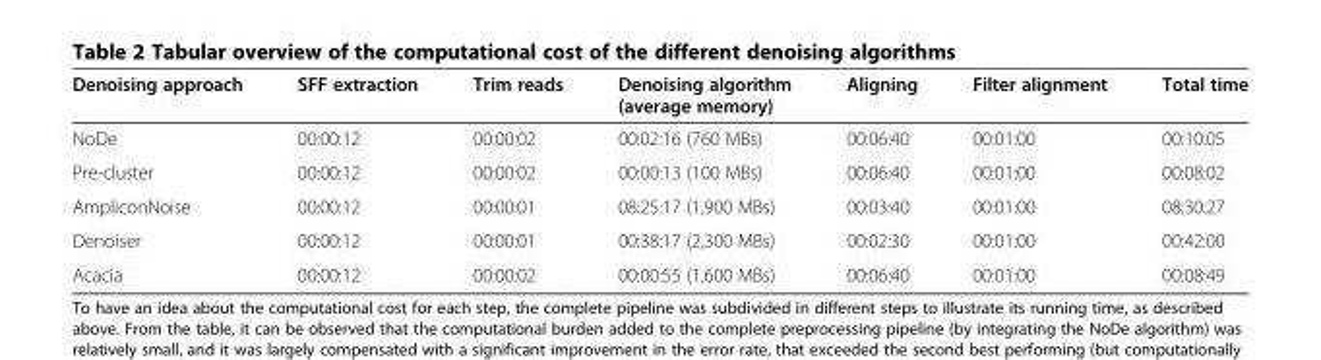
<table><thead><tr><td>Denoising approach</td><td>SFF extraction</td><td>Trim reads</td><td>Denoising algorithm (average memory)</td><td>Aligning</td><td>Filter alignment</td><td>Total time</td></tr></thead><tbody><tr><td>NoDe</td><td>00:00:12</td><td>00:00:02</td><td>00:02:16 (760 MBs)</td><td>00:06:40</td><td>00:01:00</td><td>00:10:05</td></tr><tr><td>Pre-cluster</td><td>00:00:12</td><td>00:00:02</td><td>00:00:13 (100 MBs)</td><td>00:06:40</td><td>00:01:00</td><td>00:08:02</td></tr><tr><td>AmpliconNoise</td><td>00:00:12</td><td>00:00:01</td><td>08:25:17 (1,900 MBs)</td><td>00:03:40</td><td>00:01:00</td><td>08:30:27</td></tr><tr><td>Denoiser</td><td>00:00:12</td><td>00:00:01</td><td>00:38:17 (2,300 MBs)</td><td>00:02:30</td><td>00:01:00</td><td>00:42:00</td></tr><tr><td>Acacia</td><td>00:00:12</td><td>00:00:02</td><td>00:00:55 (1,600 MBs)</td><td>00:06:40</td><td>00:01:00</td><td>00:08:49</td></tr></tbody></table>